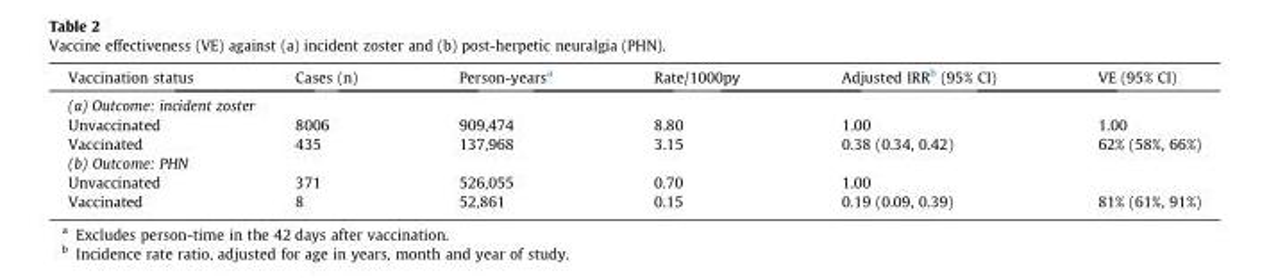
<table><thead><tr><td>Vaccination status</td><td>Cases (n)</td><td>Person-years<sup>a</sup></td><td>Rate/1000py</td><td>Adjusted IRR<sup>b</sup> (95% CI)</td><td>VE (95% CI)</td></tr></thead><tbody><tr><td colspan="6">(a) Outcome: incident zoster</td></tr><tr><td>Unvaccinated</td><td>8006</td><td>909,474</td><td>8.80</td><td>1.00</td><td>1.00</td></tr><tr><td>Vaccinated</td><td>435</td><td>137,968</td><td>3.15</td><td>0.38 (0.34, 0.42)</td><td>62% (58%, 66%)</td></tr><tr><td colspan="6">(b) Outcome: PHN</td></tr><tr><td>Unvaccinated</td><td>371</td><td>526,055</td><td>0.70</td><td>1.00</td><td></td></tr><tr><td>Vaccinated</td><td>8</td><td>52,861</td><td>0.15</td><td>0.19 (0.09, 0.39)</td><td>81% (61%, 91%)</td></tr></tbody></table>